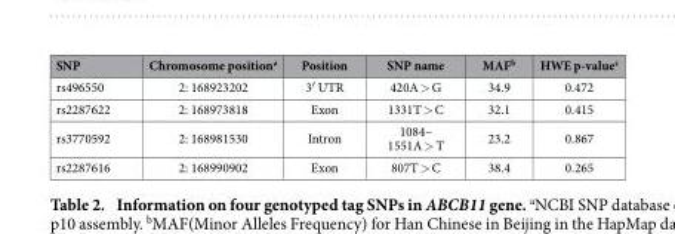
<table><thead><tr><td>SNP</td><td>Chromosome position<sup>a</sup></td><td>Position</td><td>SNP name</td><td>MAF<sup>b</sup></td><td>HWE p-value<sup>c</sup></td></tr></thead><tbody><tr><td>rs496550</td><td>2: 168923202</td><td>3′ UTR</td><td>420A &gt; G</td><td>34.9</td><td>0.472</td></tr><tr><td>rs2287622</td><td>2: 168973818</td><td>Exon</td><td>1331T &gt; C</td><td>32.1</td><td>0.415</td></tr><tr><td>rs3770592</td><td>2: 168981530</td><td>Intron</td><td>1084– 1551A &gt; T</td><td>23.2</td><td>0.867</td></tr><tr><td>rs2287616</td><td>2: 168990902</td><td>Exon</td><td>807T &gt; C</td><td>38.4</td><td>0.265</td></tr></tbody></table>